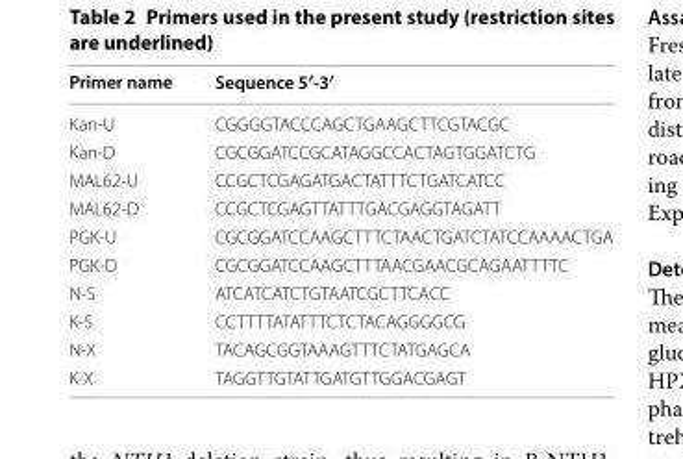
<table><thead><tr><td>Primer name</td><td>Sequence 5′‑3′</td></tr></thead><tbody><tr><td>Kan‑U</td><td>CGGGGTACCCAGCTGAAGCTTCGTACGC</td></tr><tr><td>Kan‑D</td><td>CGCGGATCCGCATAGGCCACTAGTGGATCTG</td></tr><tr><td>MAL62‑U</td><td>CCGCTCGAGATGACTATTTCTGATCATCC</td></tr><tr><td>MAL62‑D</td><td>CCGCTCGAGTTATTTGACGAGGTAGATT</td></tr><tr><td>PGK‑U</td><td>CGCGGATCCAAGCTTTCTAACTGATCTATCCAAAACTGA</td></tr><tr><td>PGK‑D</td><td>CGCGGATCCAAGCTTTAACGAACGCAGAATTTTC</td></tr><tr><td>N‑S</td><td>ATCATCATCTGTAATCGCTTCACC</td></tr><tr><td>K‑S</td><td>CCTTTTATATTTCTCTACAGGGGCG</td></tr><tr><td>N‑X</td><td>TACAGCGGTAAAGTTTCTATGAGCA</td></tr><tr><td>K‑X</td><td>TAGGTTGTATTGATGTTGGACGAGT</td></tr></tbody></table>